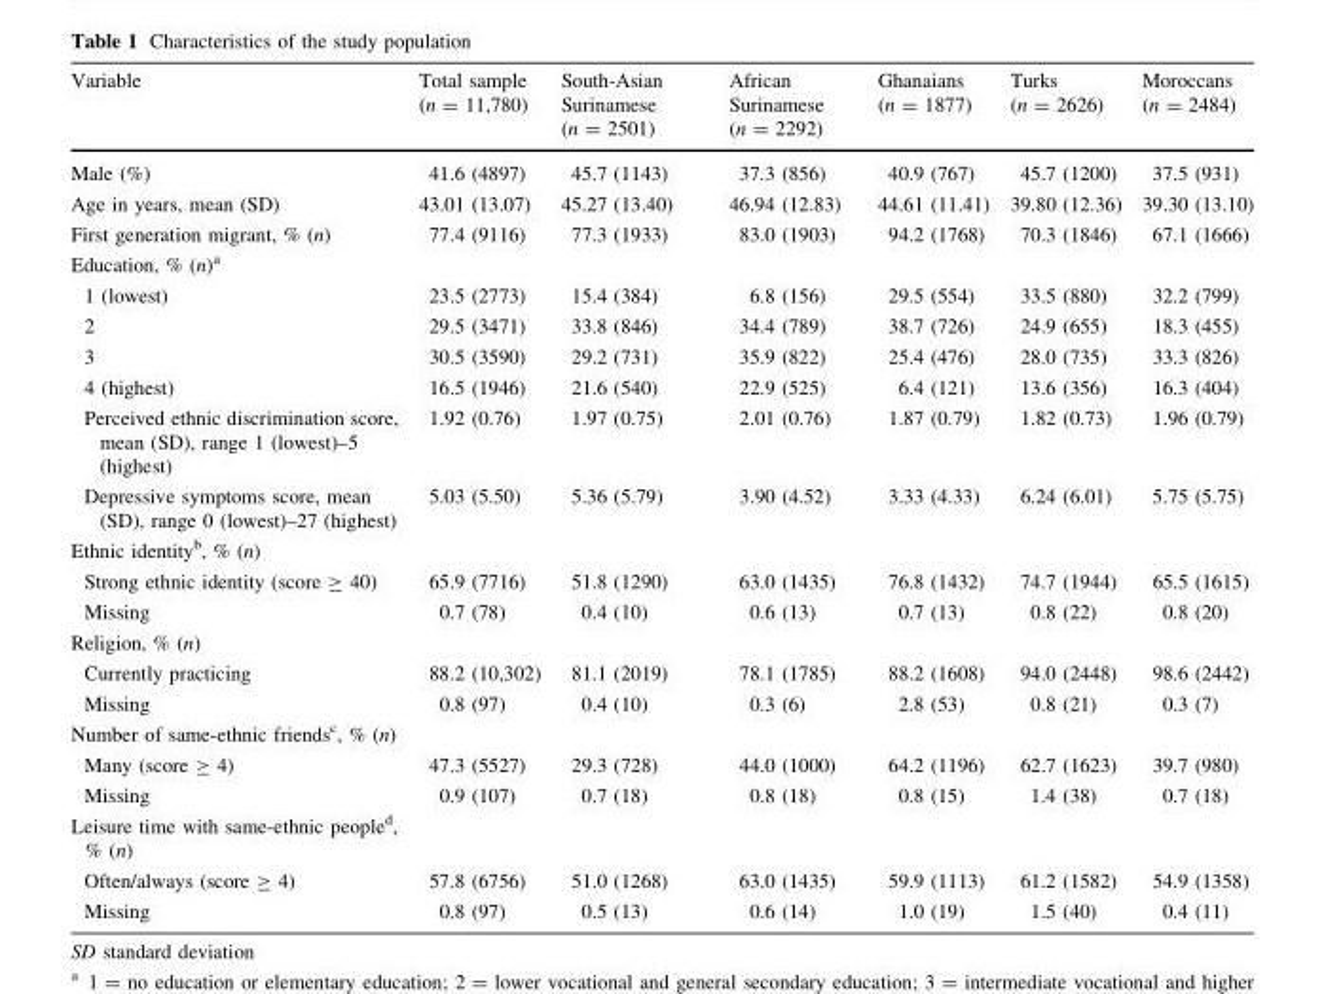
<table><thead><tr><td>Variable</td><td>Total sample (n = 11,780)</td><td>South-Asian Surinamese (n = 2501)</td><td>African Surinamese (n = 2292)</td><td>Ghanaians (n = 1877)</td><td>Turks (n = 2626)</td><td>Moroccans (n = 2484)</td></tr></thead><tbody><tr><td>Male (%)</td><td>41.6 (4897)</td><td>45.7 (1143)</td><td>37.3 (856)</td><td>40.9 (767)</td><td>45.7 (1200)</td><td>37.5 (931)</td></tr><tr><td>Age in years, mean (SD)</td><td>43.01 (13.07)</td><td>45.27 (13.40)</td><td>46.94 (12.83)</td><td>44.61 (11.41)</td><td>39.80 (12.36)</td><td>39.30 (13.10)</td></tr><tr><td>First generation migrant, % (n)</td><td>77.4 (9116)</td><td>77.3 (1933)</td><td>83.0 (1903)</td><td>94.2 (1768)</td><td>70.3 (1846)</td><td>67.1 (1666)</td></tr><tr><td colspan="7">Education, % (n)<sup>a</sup></td></tr><tr><td>1 (lowest)</td><td>23.5 (2773)</td><td>15.4 (384)</td><td>6.8 (156)</td><td>29.5 (554)</td><td>33.5 (880)</td><td>32.2 (799)</td></tr><tr><td>2</td><td>29.5 (3471)</td><td>33.8 (846)</td><td>34.4 (789)</td><td>38.7 (726)</td><td>24.9 (655)</td><td>18.3 (455)</td></tr><tr><td>3</td><td>30.5 (3590)</td><td>29.2 (731)</td><td>35.9 (822)</td><td>25.4 (476)</td><td>28.0 (735)</td><td>33.3 (826)</td></tr><tr><td>4 (highest)</td><td>16.5 (1946)</td><td>21.6 (540)</td><td>22.9 (525)</td><td>6.4 (121)</td><td>13.6 (356)</td><td>16.3 (404)</td></tr><tr><td>Perceived ethnic discrimination score, mean (SD), range 1 (lowest)–5 (highest)</td><td>1.92 (0.76)</td><td>1.97 (0.75)</td><td>2.01 (0.76)</td><td>1.87 (0.79)</td><td>1.82 (0.73)</td><td>1.96 (0.79)</td></tr><tr><td>Depressive symptoms score, mean (SD), range 0 (lowest)–27 (highest)</td><td>5.03 (5.50)</td><td>5.36 (5.79)</td><td>3.90 (4.52)</td><td>3.33 (4.33)</td><td>6.24 (6.01)</td><td>5.75 (5.75)</td></tr><tr><td colspan="7">Ethnic identity<sup>b</sup>, % (n)</td></tr><tr><td>Strong ethnic identity (score ≥ 40)</td><td>65.9 (7716)</td><td>51.8 (1290)</td><td>63.0 (1435)</td><td>76.8 (1432)</td><td>74.7 (1944)</td><td>65.5 (1615)</td></tr><tr><td>Missing</td><td>0.7 (78)</td><td>0.4 (10)</td><td>0.6 (13)</td><td>0.7 (13)</td><td>0.8 (22)</td><td>0.8 (20)</td></tr><tr><td colspan="7">Religion, % (n)</td></tr><tr><td>Currently practicing</td><td>88.2 (10,302)</td><td>81.1 (2019)</td><td>78.1 (1785)</td><td>88.2 (1608)</td><td>94.0 (2448)</td><td>98.6 (2442)</td></tr><tr><td>Missing</td><td>0.8 (97)</td><td>0.4 (10)</td><td>0.3 (6)</td><td>2.8 (53)</td><td>0.8 (21)</td><td>0.3 (7)</td></tr><tr><td colspan="7">Number of same-ethnic friends<sup>c</sup>, % (n)</td></tr><tr><td>Many (score ≥ 4)</td><td>47.3 (5527)</td><td>29.3 (728)</td><td>44.0 (1000)</td><td>64.2 (1196)</td><td>62.7 (1623)</td><td>39.7 (980)</td></tr><tr><td>Missing</td><td>0.9 (107)</td><td>0.7 (18)</td><td>0.8 (18)</td><td>0.8 (15)</td><td>1.4 (38)</td><td>0.7 (18)</td></tr><tr><td colspan="7">Leisure time with same-ethnic people<sup>d</sup>, % (n)</td></tr><tr><td>Often/always (score ≥ 4)</td><td>57.8 (6756)</td><td>51.0 (1268)</td><td>63.0 (1435)</td><td>59.9 (1113)</td><td>61.2 (1582)</td><td>54.9 (1358)</td></tr><tr><td>Missing</td><td>0.8 (97)</td><td>0.5 (13)</td><td>0.6 (14)</td><td>1.0 (19)</td><td>1.5 (40)</td><td>0.4 (11)</td></tr></tbody></table>